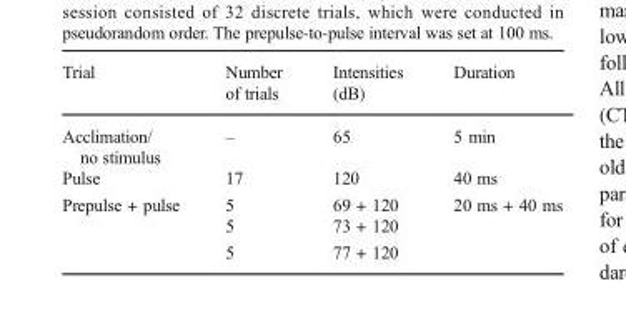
<table><thead><tr><td>Trial</td><td>Number of trials</td><td>Intensities (dB)</td><td>Duration</td></tr></thead><tbody><tr><td>Acclimation/ no stimulus</td><td>–</td><td>65</td><td>5 min</td></tr><tr><td>Pulse</td><td>17</td><td>120</td><td>40 ms</td></tr><tr><td rowspan="3">Prepulse + pulse</td><td>5</td><td>69 + 120</td><td rowspan="3">20 ms + 40 ms</td></tr><tr><td>5</td><td>73 + 120</td></tr><tr><td>5</td><td>77 + 120</td></tr></tbody></table>